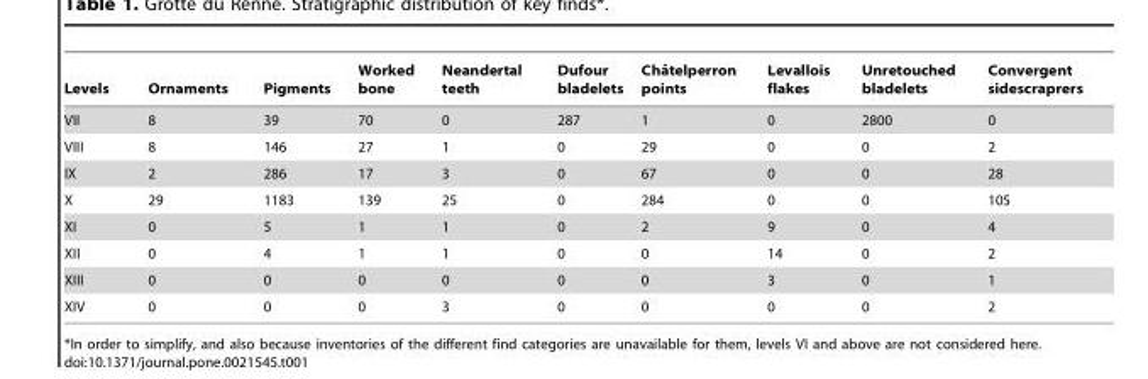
<table><thead><tr><td>Levels</td><td>Ornaments</td><td>Pigments</td><td>Worked bone</td><td>Neandertal teeth</td><td>Dufour bladelets</td><td>Chaˆtelperron points</td><td>Levallois flakes</td><td>Unretouched bladelets</td><td>Convergent sidescraprers</td></tr></thead><tbody><tr><td>VII</td><td>8</td><td>39</td><td>70</td><td>0</td><td>287</td><td>1</td><td>0</td><td>2800</td><td>0</td></tr><tr><td>VIII</td><td>8</td><td>146</td><td>27</td><td>1</td><td>0</td><td>29</td><td>0</td><td>0</td><td>2</td></tr><tr><td>IX</td><td>2</td><td>286</td><td>17</td><td>3</td><td>0</td><td>67</td><td>0</td><td>0</td><td>28</td></tr><tr><td>X</td><td>29</td><td>1183</td><td>139</td><td>25</td><td>0</td><td>284</td><td>0</td><td>0</td><td>105</td></tr><tr><td>XI</td><td>0</td><td>5</td><td>1</td><td>1</td><td>0</td><td>2</td><td>9</td><td>0</td><td>4</td></tr><tr><td>XII</td><td>0</td><td>4</td><td>1</td><td>1</td><td>0</td><td>0</td><td>14</td><td>0</td><td>2</td></tr><tr><td>XIII</td><td>0</td><td>0</td><td>0</td><td>0</td><td>0</td><td>0</td><td>3</td><td>0</td><td>1</td></tr><tr><td>XIV</td><td>0</td><td>0</td><td>0</td><td>3</td><td>0</td><td>0</td><td>0</td><td>0</td><td>2</td></tr></tbody></table>